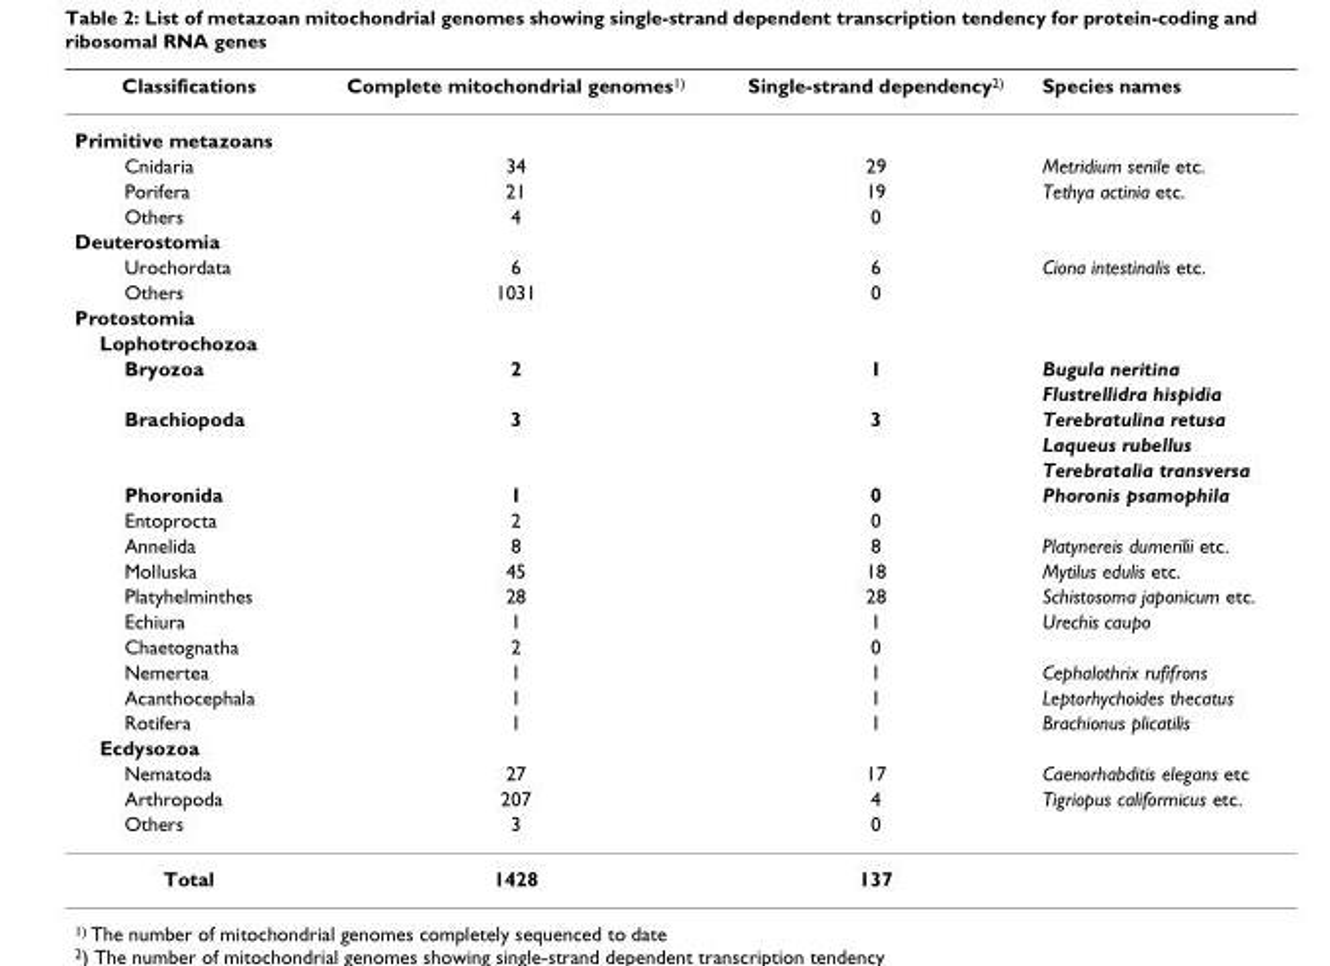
<table><thead><tr><td>Classifications</td><td>Complete mitochondrial genomes<sup>1)</sup></td><td>Single-strand dependency<sup>2)</sup></td><td>Species names</td></tr></thead><tbody><tr><td colspan="4">Primitive metazoans</td></tr><tr><td>Cnidaria</td><td>34</td><td>29</td><td>Metridium senile etc.</td></tr><tr><td>Porifera</td><td>21</td><td>19</td><td>Tethya actinia etc.</td></tr><tr><td>Others</td><td>4</td><td>0</td><td></td></tr><tr><td colspan="4">Deuterostomia</td></tr><tr><td>Urochordata</td><td>6</td><td>6</td><td>Ciona intestinalis etc.</td></tr><tr><td>Others</td><td>1031</td><td>0</td><td></td></tr><tr><td colspan="4">Protostomia</td></tr><tr><td colspan="4">Lophotrochozoa</td></tr><tr><td rowspan="2">Bryozoa</td><td>2</td><td>1</td><td>Bugula neritina</td></tr><tr><td></td><td></td><td>Flustrellidra hispidia</td></tr><tr><td rowspan="3">Brachiopoda</td><td>3</td><td>3</td><td>Terebratulina retusa</td></tr><tr><td></td><td></td><td>Laqueus rubellus</td></tr><tr><td></td><td></td><td>Terebratalia transversa</td></tr><tr><td>Phoronida</td><td>1</td><td>0</td><td>Phoronis psamophila</td></tr><tr><td>Entoprocta</td><td>2</td><td>0</td><td></td></tr><tr><td>Annelida</td><td>8</td><td>8</td><td>Platynereis dumerilii etc.</td></tr><tr><td>Molluska</td><td>45</td><td>18</td><td>Mytilus edulis etc.</td></tr><tr><td>Platyhelminthes</td><td>28</td><td>28</td><td>Schistosoma japonicum etc.</td></tr><tr><td>Echiura</td><td>1</td><td>1</td><td>Urechis caupo</td></tr><tr><td>Chaetognatha</td><td>2</td><td>0</td><td></td></tr><tr><td>Nemertea</td><td>1</td><td>1</td><td>Cephalothrix rufifrons</td></tr><tr><td>Acanthocephala</td><td>1</td><td>1</td><td>Leptorhychoides thecatus</td></tr><tr><td>Rotifera</td><td>1</td><td>1</td><td>Brachionus plicatilis</td></tr><tr><td colspan="4">Ecdysozoa</td></tr><tr><td>Nematoda</td><td>27</td><td>17</td><td>Caenorhabditis elegans etc</td></tr><tr><td>Arthropoda</td><td>207</td><td>4</td><td>Tigriopus califormicus etc.</td></tr><tr><td>Others</td><td>3</td><td>0</td><td></td></tr><tr><td>Total</td><td>1428</td><td>137</td><td></td></tr></tbody></table>